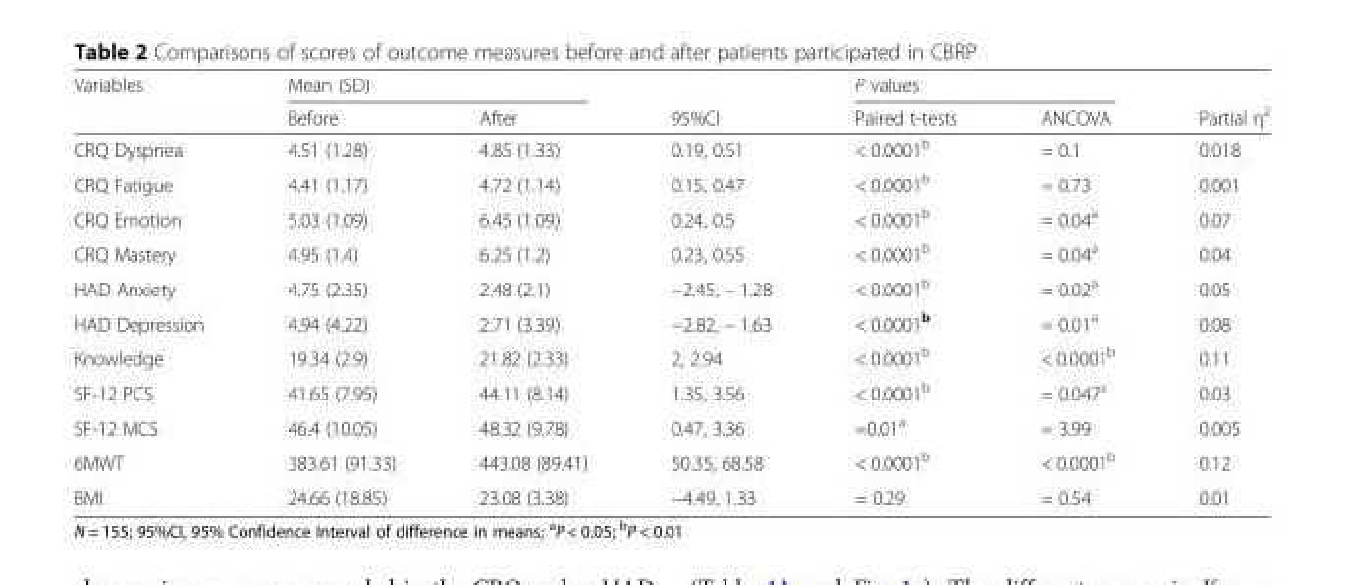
<table><thead><tr><td rowspan="2">Variables</td><td colspan="2">Mean (SD)</td><td rowspan="2">95%CI</td><td colspan="2">P values</td><td rowspan="2">Partial η<sup>2</sup></td></tr><tr><td>Before</td><td>After</td><td>Paired t-tests</td><td>ANCOVA</td></tr></thead><tbody><tr><td>CRQ Dyspnea</td><td>4.51 (1.28)</td><td>4.85 (1.33)</td><td>0.19, 0.51</td><td>&lt; 0.0001<sup>b</sup></td><td>= 0.1</td><td>0.018</td></tr><tr><td>CRQ Fatigue</td><td>4.41 (1.17)</td><td>4.72 (1.14)</td><td>0.15, 0.47</td><td>&lt; 0.0001<sup>b</sup></td><td>= 0.73</td><td>0.001</td></tr><tr><td>CRQ Emotion</td><td>5.03 (1.09)</td><td>6.45 (1.09)</td><td>0.24, 0.5</td><td>&lt; 0.0001<sup>b</sup></td><td>= 0.04<sup>a</sup></td><td>0.07</td></tr><tr><td>CRQ Mastery</td><td>4.95 (1.4)</td><td>6.25 (1.2)</td><td>0.23, 0.55</td><td>&lt; 0.0001<sup>b</sup></td><td>= 0.04<sup>a</sup></td><td>0.04</td></tr><tr><td>HAD Anxiety</td><td>4.75 (2.35)</td><td>2.48 (2.1)</td><td>−2.45, − 1.28</td><td>&lt; 0.0001<sup>b</sup></td><td>= 0.02<sup>a</sup></td><td>0.05</td></tr><tr><td>HAD Depression</td><td>4.94 (4.22)</td><td>2.71 (3.39)</td><td>−2.82, − 1.63</td><td>&lt; 0.0001<sup>b</sup></td><td>= 0.01<sup>a</sup></td><td>0.08</td></tr><tr><td>Knowledge</td><td>19.34 (2.9)</td><td>21.82 (2.33)</td><td>2, 2.94</td><td>&lt; 0.0001<sup>b</sup></td><td>&lt; 0.0001<sup>b</sup></td><td>0.11</td></tr><tr><td>SF-12 PCS</td><td>41.65 (7.95)</td><td>44.11 (8.14)</td><td>1.35, 3.56</td><td>&lt; 0.0001<sup>b</sup></td><td>= 0.047<sup>a</sup></td><td>0.03</td></tr><tr><td>SF-12 MCS</td><td>46.4 (10.05)</td><td>48.32 (9.78)</td><td>0.47, 3.36</td><td>=0.01<sup>a</sup></td><td>= 3.99</td><td>0.005</td></tr><tr><td>6MWT</td><td>383.61 (91.33)</td><td>443.08 (89.41)</td><td>50.35, 68.58</td><td>&lt; 0.0001<sup>b</sup></td><td>&lt; 0.0001<sup>b</sup></td><td>0.12</td></tr><tr><td>BMI</td><td>24.66 (18.85)</td><td>23.08 (3.38)</td><td>−4.49, 1.33</td><td>= 0.29</td><td>= 0.54</td><td>0.01</td></tr></tbody></table>